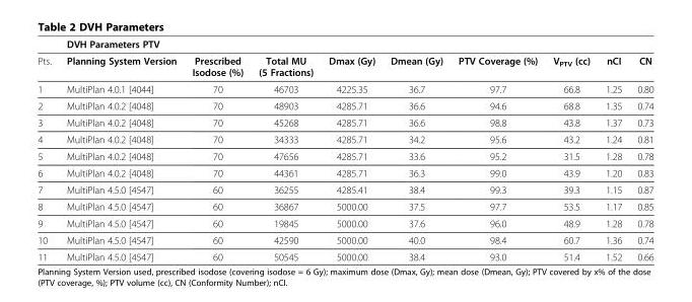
<table><thead><tr><td rowspan="2">Pts.</td><td colspan="9">DVH Parameters PTV</td></tr><tr><td>Planning System Version</td><td>Prescribed Isodose (%)</td><td>Total MU (5 Fractions)</td><td>Dmax (Gy)</td><td>Dmean (Gy)</td><td>PTV Coverage (%)</td><td>V<sub>PTV</sub> (cc)</td><td>nCI</td><td>CN</td></tr></thead><tbody><tr><td>1</td><td>MultiPlan 4.0.1 [4044]</td><td>70</td><td>46703</td><td>4225.35</td><td>36.7</td><td>97.7</td><td>66.8</td><td>1.25</td><td>0.80</td></tr><tr><td>2</td><td>MultiPlan 4.0.2 [4048]</td><td>70</td><td>48903</td><td>4285.71</td><td>36.6</td><td>94.6</td><td>68.8</td><td>1.35</td><td>0.74</td></tr><tr><td>3</td><td>MultiPlan 4.0.2 [4048]</td><td>70</td><td>45268</td><td>4285.71</td><td>36.6</td><td>98.8</td><td>43.8</td><td>1.37</td><td>0.73</td></tr><tr><td>4</td><td>MultiPlan 4.0.2 [4048]</td><td>70</td><td>34333</td><td>4285.71</td><td>34.2</td><td>95.6</td><td>43.2</td><td>1.24</td><td>0.81</td></tr><tr><td>5</td><td>MultiPlan 4.0.2 [4048]</td><td>70</td><td>47656</td><td>4285.71</td><td>33.6</td><td>95.2</td><td>31.5</td><td>1.28</td><td>0.78</td></tr><tr><td>6</td><td>MultiPlan 4.0.2 [4048]</td><td>70</td><td>44361</td><td>4285.71</td><td>36.3</td><td>99.0</td><td>43.9</td><td>1.20</td><td>0.83</td></tr><tr><td>7</td><td>MultiPlan 4.5.0 [4547]</td><td>60</td><td>36255</td><td>4285.41</td><td>38.4</td><td>99.3</td><td>39.3</td><td>1.15</td><td>0.87</td></tr><tr><td>8</td><td>MultiPlan 4.5.0 [4547]</td><td>60</td><td>36867</td><td>5000.00</td><td>37.5</td><td>97.7</td><td>53.5</td><td>1.17</td><td>0.85</td></tr><tr><td>9</td><td>MultiPlan 4.5.0 [4547]</td><td>60</td><td>19845</td><td>5000.00</td><td>37.6</td><td>96.0</td><td>48.9</td><td>1.28</td><td>0.78</td></tr><tr><td>10</td><td>MultiPlan 4.5.0 [4547]</td><td>60</td><td>42590</td><td>5000.00</td><td>40.0</td><td>98.4</td><td>60.7</td><td>1.36</td><td>0.74</td></tr><tr><td>11</td><td>MultiPlan 4.5.0 [4547]</td><td>60</td><td>50545</td><td>5000.00</td><td>38.4</td><td>93.0</td><td>51.4</td><td>1.52</td><td>0.66</td></tr></tbody></table>